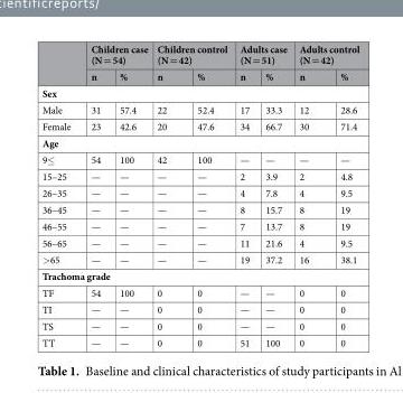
<table><thead><tr><td rowspan="2"></td><td colspan="2">Children case (N = 54)</td><td colspan="2">Children control (N = 42)</td><td colspan="2">Adults case (N = 51)</td><td colspan="2">Adults control (N = 42)</td></tr><tr><td>n</td><td>%</td><td>n</td><td>%</td><td>n</td><td>%</td><td>n</td><td>%</td></tr></thead><tbody><tr><td colspan="9">Sex</td></tr><tr><td>Male</td><td>31</td><td>57.4</td><td>22</td><td>52.4</td><td>17</td><td>33.3</td><td>12</td><td>28.6</td></tr><tr><td>Female</td><td>23</td><td>42.6</td><td>20</td><td>47.6</td><td>34</td><td>66.7</td><td>30</td><td>71.4</td></tr><tr><td colspan="9">Age</td></tr><tr><td>9≤</td><td>54</td><td>100</td><td>42</td><td>100</td><td>—</td><td>—</td><td>—</td><td>—</td></tr><tr><td>15–25</td><td>—</td><td>—</td><td>—</td><td>—</td><td>2</td><td>3.9</td><td>2</td><td>4.8</td></tr><tr><td>26–35</td><td>—</td><td>—</td><td>—</td><td>—</td><td>4</td><td>7.8</td><td>4</td><td>9.5</td></tr><tr><td>36–45</td><td>—</td><td>—</td><td>—</td><td>—</td><td>8</td><td>15.7</td><td>8</td><td>19</td></tr><tr><td>46–55</td><td>—</td><td>—</td><td>—</td><td>—</td><td>7</td><td>13.7</td><td>8</td><td>19</td></tr><tr><td>56–65</td><td>—</td><td>—</td><td>—</td><td>—</td><td>11</td><td>21.6</td><td>4</td><td>9.5</td></tr><tr><td>&gt;65</td><td>—</td><td>—</td><td>—</td><td>—</td><td>19</td><td>37.2</td><td>16</td><td>38.1</td></tr><tr><td colspan="9">Trachoma grade</td></tr><tr><td>TF</td><td>54</td><td>100</td><td>0</td><td>0</td><td>—</td><td>—</td><td>0</td><td>0</td></tr><tr><td>TI</td><td>—</td><td>—</td><td>0</td><td>0</td><td>—</td><td>—</td><td>0</td><td>0</td></tr><tr><td>TS</td><td>—</td><td>—</td><td>0</td><td>0</td><td>—</td><td>—</td><td>0</td><td>0</td></tr><tr><td>TT</td><td>—</td><td>—</td><td>0</td><td>0</td><td>51</td><td>100</td><td>0</td><td>0</td></tr></tbody></table>